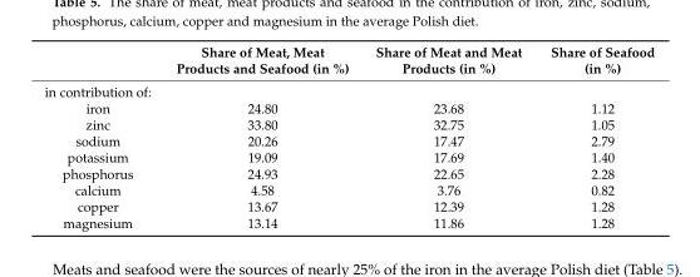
<table><thead><tr><td></td><td>Share of Meat, Meat Products and Seafood (in %)</td><td>Share of Meat and Meat Products (in %)</td><td>Share of Seafood (in %)</td></tr></thead><tbody><tr><td colspan="4">in contribution of:</td></tr><tr><td>iron</td><td>24.80</td><td>23.68</td><td>1.12</td></tr><tr><td>zinc</td><td>33.80</td><td>32.75</td><td>1.05</td></tr><tr><td>sodium</td><td>20.26</td><td>17.47</td><td>2.79</td></tr><tr><td>potassium</td><td>19.09</td><td>17.69</td><td>1.40</td></tr><tr><td>phosphorus</td><td>24.93</td><td>22.65</td><td>2.28</td></tr><tr><td>calcium</td><td>4.58</td><td>3.76</td><td>0.82</td></tr><tr><td>copper</td><td>13.67</td><td>12.39</td><td>1.28</td></tr><tr><td>magnesium</td><td>13.14</td><td>11.86</td><td>1.28</td></tr></tbody></table>